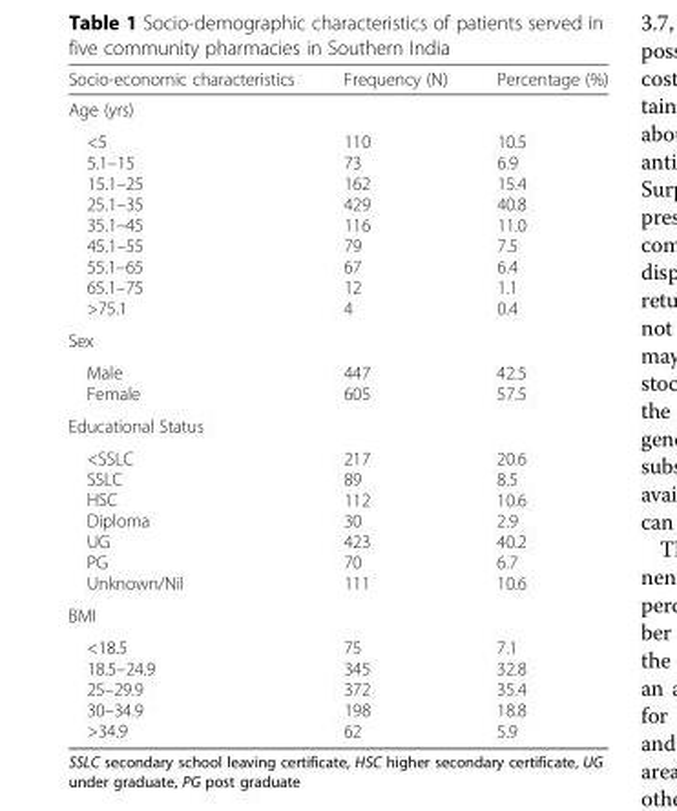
<table><thead><tr><td>Socio-economic characteristics</td><td>Frequency (N)</td><td>Percentage (%)</td></tr></thead><tbody><tr><td colspan="3">Age (yrs)</td></tr><tr><td>&lt;5 5.1–15 15.1–25 25.1–35 35.1–45 45.1–55 55.1–65 65.1–75 &gt;75.1</td><td>110 73 162 429 116 79 67 12 4</td><td>10.5 6.9 15.4 40.8 11.0 7.5 6.4 1.1 0.4</td></tr><tr><td colspan="3">Sex</td></tr><tr><td>Male Female</td><td>447 605</td><td>42.5 57.5</td></tr><tr><td colspan="3">Educational Status</td></tr><tr><td>&lt;SSLC SSLC HSC Diploma UG PG Unknown/Nil</td><td>217 89 112 30 423 70 111</td><td>20.6 8.5 10.6 2.9 40.2 6.7 10.6</td></tr><tr><td colspan="3">BMI</td></tr><tr><td>&lt;18.5 18.5–24.9 25–29.9 30–34.9 &gt;34.9</td><td>75 345 372 198 62</td><td>7.1 32.8 35.4 18.8 5.9</td></tr></tbody></table>